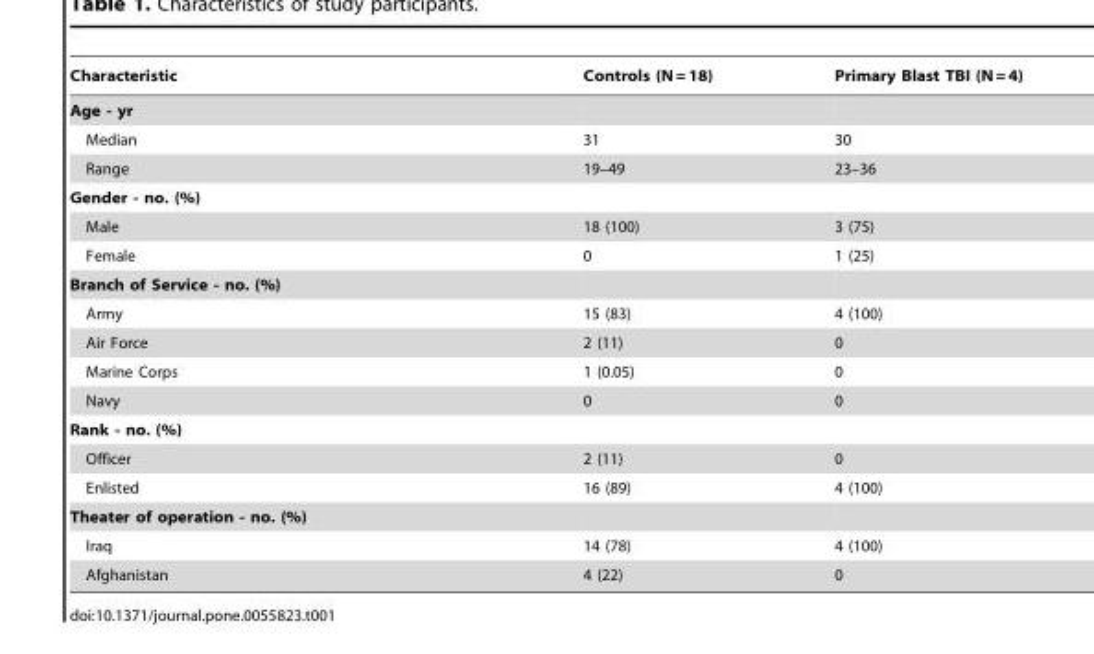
<table><thead><tr><td>Characteristic</td><td>Controls (N = 18)</td><td>Primary Blast TBI (N = 4)</td></tr></thead><tbody><tr><td colspan="3">Age - yr</td></tr><tr><td>Median</td><td>31</td><td>30</td></tr><tr><td>Range</td><td>19–49</td><td>23–36</td></tr><tr><td colspan="3">Gender - no. (%)</td></tr><tr><td>Male</td><td>18 (100)</td><td>3 (75)</td></tr><tr><td>Female</td><td>0</td><td>1 (25)</td></tr><tr><td colspan="3">Branch of Service - no. (%)</td></tr><tr><td>Army</td><td>15 (83)</td><td>4 (100)</td></tr><tr><td>Air Force</td><td>2 (11)</td><td>0</td></tr><tr><td>Marine Corps</td><td>1 (0.05)</td><td>0</td></tr><tr><td>Navy</td><td>0</td><td>0</td></tr><tr><td colspan="3">Rank - no. (%)</td></tr><tr><td>Officer</td><td>2 (11)</td><td>0</td></tr><tr><td>Enlisted</td><td>16 (89)</td><td>4 (100)</td></tr><tr><td colspan="3">Theater of operation - no. (%)</td></tr><tr><td>Iraq</td><td>14 (78)</td><td>4 (100)</td></tr><tr><td>Afghanistan</td><td>4 (22)</td><td>0</td></tr></tbody></table>